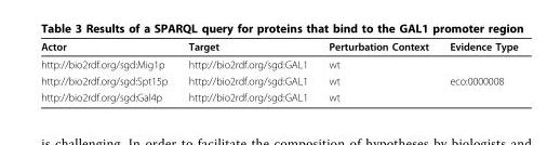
<table><thead><tr><td>Actor</td><td>Target</td><td>Perturbation Context</td><td>Evidence Type</td></tr></thead><tbody><tr><td>http://bio2rdf.org/sgd:Mig1p</td><td>http://bio2rdf.org/sgd:GAL1</td><td>wt</td><td></td></tr><tr><td>http://bio2rdf.org/sgd:Spt15p</td><td>http://bio2rdf.org/sgd:GAL1</td><td>wt</td><td>eco:0000008</td></tr><tr><td>http://bio2rdf.org/sgd:Gal4p</td><td>http://bio2rdf.org/sgd:GAL1</td><td>wt</td><td></td></tr></tbody></table>